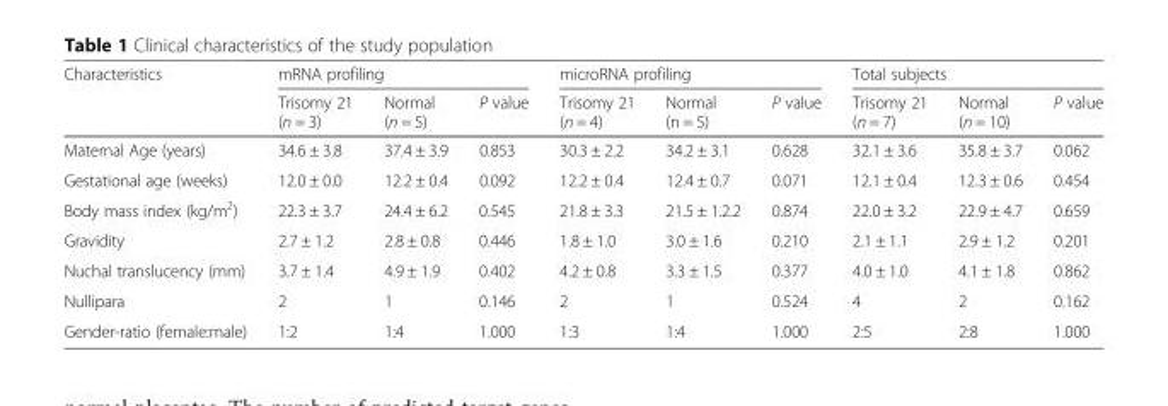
<table><thead><tr><td rowspan="2">Characteristics</td><td colspan="3">mRNA profiling</td><td colspan="3">microRNA profiling</td><td colspan="3">Total subjects</td></tr><tr><td>Trisomy 21 (n = 3)</td><td>Normal (n = 5)</td><td>P value</td><td>Trisomy 21 (n = 4)</td><td>Normal (n = 5)</td><td>P value</td><td>Trisomy 21 (n = 7)</td><td>Normal (n = 10)</td><td>P value</td></tr></thead><tbody><tr><td>Maternal Age (years)</td><td>34.6 ± 3.8</td><td>37.4 ± 3.9</td><td>0.853</td><td>30.3 ± 2.2</td><td>34.2 ± 3.1</td><td>0.628</td><td>32.1 ± 3.6</td><td>35.8 ± 3.7</td><td>0.062</td></tr><tr><td>Gestational age (weeks)</td><td>12.0 ± 0.0</td><td>12.2 ± 0.4</td><td>0.092</td><td>12.2 ± 0.4</td><td>12.4 ± 0.7</td><td>0.071</td><td>12.1 ± 0.4</td><td>12.3 ± 0.6</td><td>0.454</td></tr><tr><td>Body mass index (kg/m<sup>2</sup>)</td><td>22.3 ± 3.7</td><td>24.4 ± 6.2</td><td>0.545</td><td>21.8 ± 3.3</td><td>21.5 ± 1.2.2</td><td>0.874</td><td>22.0 ± 3.2</td><td>22.9 ± 4.7</td><td>0.659</td></tr><tr><td>Gravidity</td><td>2.7 ± 1.2</td><td>2.8 ± 0.8</td><td>0.446</td><td>1.8 ± 1.0</td><td>3.0 ± 1.6</td><td>0.210</td><td>2.1 ± 1.1</td><td>2.9 ± 1.2</td><td>0.201</td></tr><tr><td>Nuchal translucency (mm)</td><td>3.7 ± 1.4</td><td>4.9 ± 1.9</td><td>0.402</td><td>4.2 ± 0.8</td><td>3.3 ± 1.5</td><td>0.377</td><td>4.0 ± 1.0</td><td>4.1 ± 1.8</td><td>0.862</td></tr><tr><td>Nullipara</td><td>2</td><td>1</td><td>0.146</td><td>2</td><td>1</td><td>0.524</td><td>4</td><td>2</td><td>0.162</td></tr><tr><td>Gender-ratio (female:male)</td><td>1:2</td><td>1:4</td><td>1.000</td><td>1:3</td><td>1:4</td><td>1.000</td><td>2:5</td><td>2:8</td><td>1.000</td></tr></tbody></table>